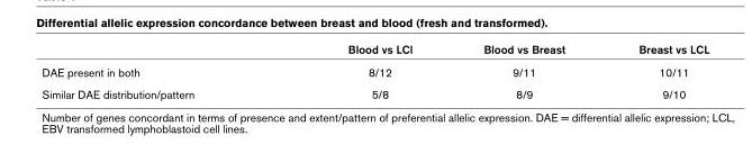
<table><thead><tr><td></td><td>Blood vs LCl</td><td>Blood vs Breast</td><td>Breast vs LCL</td></tr></thead><tbody><tr><td>DAE present in both</td><td>8/12</td><td>9/11</td><td>10/11</td></tr><tr><td>Similar DAE distribution/pattern</td><td>5/8</td><td>8/9</td><td>9/10</td></tr></tbody></table>